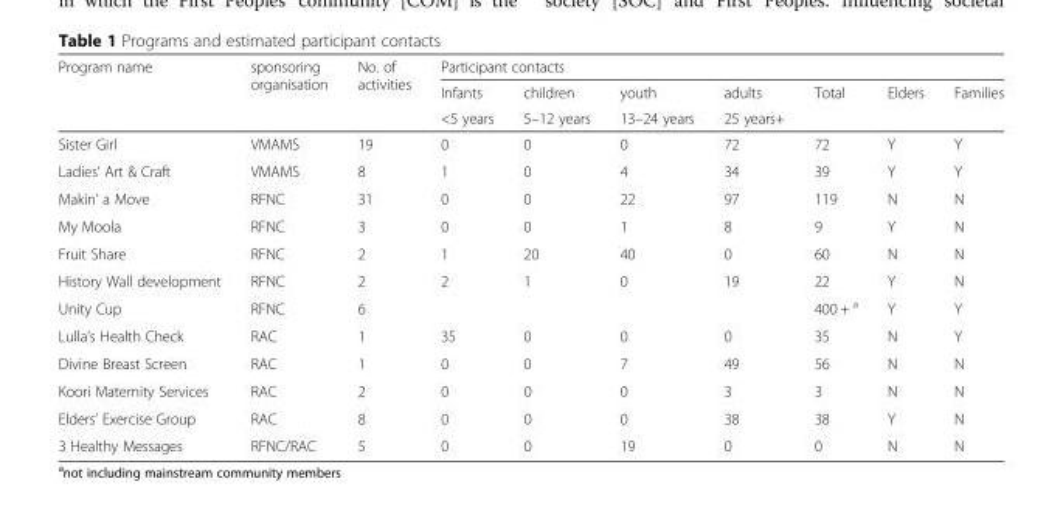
<table><thead><tr><td rowspan="3">Program name</td><td rowspan="3">sponsoring organisation</td><td rowspan="3">No. of activities</td><td colspan="7">Participant contacts</td></tr><tr><td rowspan="2">Infants &lt;5 years</td><td rowspan="2">children 5–12 years</td><td rowspan="2">youth 13–24 years</td><td rowspan="2">adults 25 years+</td><td rowspan="2">Total</td><td rowspan="2">Elders</td><td rowspan="2">Families</td></tr><tr></tr></thead><tbody><tr><td>Sister Girl</td><td>VMAMS</td><td>19</td><td>0</td><td>0</td><td>0</td><td>72</td><td>72</td><td>Y</td><td>Y</td></tr><tr><td>Ladies’ Art &amp; Craft</td><td>VMAMS</td><td>8</td><td>1</td><td>0</td><td>4</td><td>34</td><td>39</td><td>Y</td><td>Y</td></tr><tr><td>Makin’ a Move</td><td>RFNC</td><td>31</td><td>0</td><td>0</td><td>22</td><td>97</td><td>119</td><td>N</td><td>N</td></tr><tr><td>My Moola</td><td>RFNC</td><td>3</td><td>0</td><td>0</td><td>1</td><td>8</td><td>9</td><td>Y</td><td>N</td></tr><tr><td>Fruit Share</td><td>RFNC</td><td>2</td><td>1</td><td>20</td><td>40</td><td>0</td><td>60</td><td>N</td><td>N</td></tr><tr><td>History Wall development</td><td>RFNC</td><td>2</td><td>2</td><td>1</td><td>0</td><td>19</td><td>22</td><td>Y</td><td>N</td></tr><tr><td>Unity Cup</td><td>RFNC</td><td>6</td><td></td><td></td><td></td><td></td><td>400 + <sup>a</sup></td><td>Y</td><td>Y</td></tr><tr><td>Lulla’s Health Check</td><td>RAC</td><td>1</td><td>35</td><td>0</td><td>0</td><td>0</td><td>35</td><td>N</td><td>Y</td></tr><tr><td>Divine Breast Screen</td><td>RAC</td><td>1</td><td>0</td><td>0</td><td>7</td><td>49</td><td>56</td><td>N</td><td>N</td></tr><tr><td>Koori Maternity Services</td><td>RAC</td><td>2</td><td>0</td><td>0</td><td>0</td><td>3</td><td>3</td><td>N</td><td>N</td></tr><tr><td>Elders’ Exercise Group</td><td>RAC</td><td>8</td><td>0</td><td>0</td><td>0</td><td>38</td><td>38</td><td>Y</td><td>N</td></tr><tr><td>3 Healthy Messages</td><td>RFNC/RAC</td><td>5</td><td>0</td><td>0</td><td>19</td><td>0</td><td>0</td><td>N</td><td>N</td></tr></tbody></table>